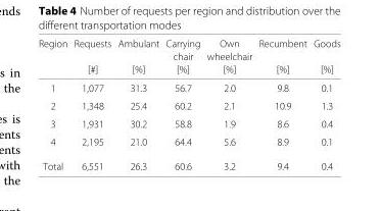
<table><thead><tr><td rowspan="3">Region</td><td rowspan="3">Requests [#]</td><td rowspan="3">Ambulant [%]</td><td rowspan="3">Carrying chair [%]</td><td rowspan="3">Own wheelchair [%]</td><td rowspan="3">Recumbent [%]</td><td rowspan="3">Goods [%]</td></tr><tr></tr><tr></tr></thead><tbody><tr><td>1</td><td>1,077</td><td>31.3</td><td>56.7</td><td>2.0</td><td>9.8</td><td>0.1</td></tr><tr><td>2</td><td>1,348</td><td>25.4</td><td>60.2</td><td>2.1</td><td>10.9</td><td>1.3</td></tr><tr><td>3</td><td>1,931</td><td>30.2</td><td>58.8</td><td>1.9</td><td>8.6</td><td>0.4</td></tr><tr><td>4</td><td>2,195</td><td>21.0</td><td>64.4</td><td>5.6</td><td>8.9</td><td>0.1</td></tr><tr><td>Total</td><td>6,551</td><td>26.3</td><td>60.6</td><td>3.2</td><td>9.4</td><td>0.4</td></tr></tbody></table>